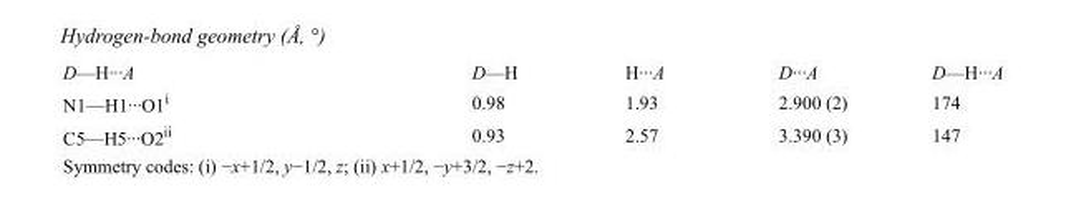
<table><tbody><tr><td>D—H···A</td><td>D—H</td><td>H···A</td><td>D···A</td><td>D—H···A</td></tr><tr><td>N1—H1···O1<sup>i</sup></td><td>0.98</td><td>1.93</td><td>2.900 (2)</td><td>174</td></tr><tr><td>C5—H5···O2<sup>ii</sup></td><td>0.93</td><td>2.57</td><td>3.390 (3)</td><td>147</td></tr></tbody></table>